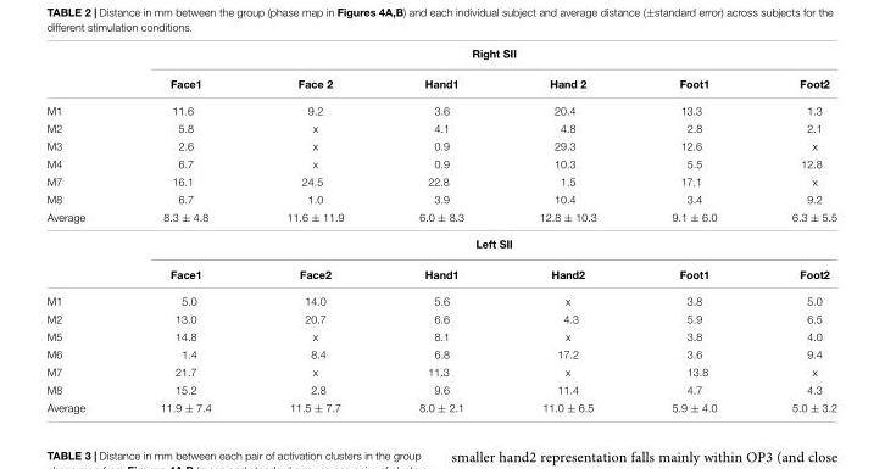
<table><thead><tr><td rowspan="2"></td><td colspan="6">Right SII</td></tr><tr><td>Face1</td><td>Face 2</td><td>Hand1</td><td>Hand 2</td><td>Foot1</td><td>Foot2</td></tr></thead><tbody><tr><td>M1</td><td>11.6</td><td>9.2</td><td>3.6</td><td>20.4</td><td>13.3</td><td>1.3</td></tr><tr><td>M2</td><td>5.8</td><td>x</td><td>4.1</td><td>4.8</td><td>2.8</td><td>2.1</td></tr><tr><td>M3</td><td>2.6</td><td>x</td><td>0.9</td><td>29.3</td><td>12.6</td><td>x</td></tr><tr><td>M4</td><td>6.7</td><td>x</td><td>0.9</td><td>10.3</td><td>5.5</td><td>12.8</td></tr><tr><td>M7</td><td>16.1</td><td>24.5</td><td>22.8</td><td>1.5</td><td>17.1</td><td>x</td></tr><tr><td>M8</td><td>6.7</td><td>1.0</td><td>3.9</td><td>10.4</td><td>3.4</td><td>9.2</td></tr><tr><td rowspan="3">Average</td><td>8.3 ± 4.8</td><td>11.6 ± 11.9</td><td>6.0 ± 8.3</td><td>12.8 ± 10.3</td><td>9.1 ± 6.0</td><td>6.3 ± 5.5</td></tr><tr><td colspan="6">Left SII</td></tr><tr><td>Face1</td><td>Face2</td><td>Hand1</td><td>Hand2</td><td>Foot1</td><td>Foot2</td></tr><tr><td>M1</td><td>5.0</td><td>14.0</td><td>5.6</td><td>x</td><td>3.8</td><td>5.0</td></tr><tr><td>M2</td><td>13.0</td><td>20.7</td><td>6.6</td><td>4.3</td><td>5.9</td><td>6.5</td></tr><tr><td>M5</td><td>14.8</td><td>x</td><td>8.1</td><td>x</td><td>3.8</td><td>4.0</td></tr><tr><td>M6</td><td>1.4</td><td>8.4</td><td>6.8</td><td>17.2</td><td>3.6</td><td>9.4</td></tr><tr><td>M7</td><td>21.7</td><td>x</td><td>11.3</td><td>x</td><td>13.8</td><td>x</td></tr><tr><td>M8</td><td>15.2</td><td>2.8</td><td>9.6</td><td>11.4</td><td>4.7</td><td>4.3</td></tr><tr><td>Average</td><td>11.9 ± 7.4</td><td>11.5 ± 7.7</td><td>8.0 ± 2.1</td><td>11.0 ± 6.5</td><td>5.9 ± 4.0</td><td>5.0 ± 3.2</td></tr></tbody></table>